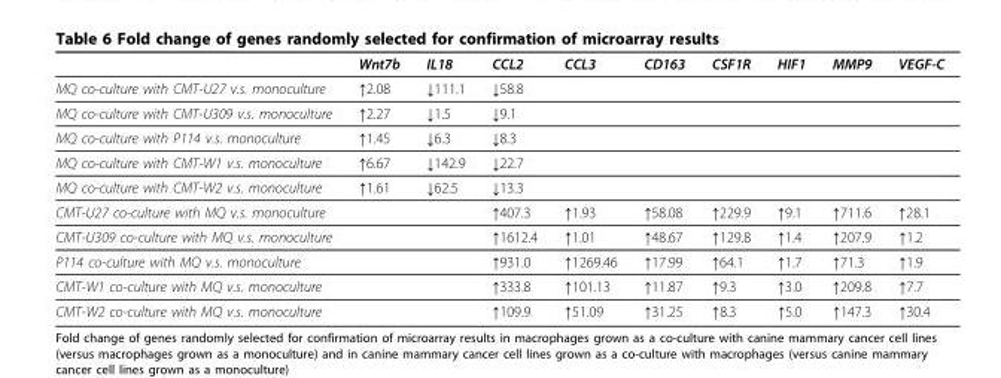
<table><thead><tr><td></td><td>Wnt7b</td><td>IL18</td><td>CCL2</td><td>CCL3</td><td>CD163</td><td>CSF1R</td><td>HIF1</td><td>MMP9</td><td>VEGF-C</td></tr></thead><tbody><tr><td>MQ co-culture with CMT-U27 v.s. monoculture</td><td>↑2.08</td><td>↓111.1</td><td>↓58.8</td><td></td><td></td><td></td><td></td><td></td><td></td></tr><tr><td>MQ co-culture with CMT-U309 v.s. monoculture</td><td>↑2.27</td><td>↓1.5</td><td>↓9.1</td><td></td><td></td><td></td><td></td><td></td><td></td></tr><tr><td>MQ co-culture with P114 v.s. monoculture</td><td>↑1.45</td><td>↓6.3</td><td>↓8.3</td><td></td><td></td><td></td><td></td><td></td><td></td></tr><tr><td>MQ co-culture with CMT-W1 v.s. monoculture</td><td>↑6.67</td><td>↓142.9</td><td>↓22.7</td><td></td><td></td><td></td><td></td><td></td><td></td></tr><tr><td>MQ co-culture with CMT-W2 v.s. monoculture</td><td>↑1.61</td><td>↓62.5</td><td>↓13.3</td><td></td><td></td><td></td><td></td><td></td><td></td></tr><tr><td>CMT-U27 co-culture with MQ v.s. monoculture</td><td></td><td></td><td>↑407.3</td><td>↑1.93</td><td>↑58.08</td><td>↑229.9</td><td>↑9.1</td><td>↑711.6</td><td>↑28.1</td></tr><tr><td>CMT-U309 co-culture with MQ v.s. monoculture</td><td></td><td></td><td>↑1612.4</td><td>↑1.01</td><td>↑48.67</td><td>↑129.8</td><td>↑1.4</td><td>↑207.9</td><td>↑1.2</td></tr><tr><td>P114 co-culture with MQ v.s. monoculture</td><td></td><td></td><td>↑931.0</td><td>↑1269.46</td><td>↑17.99</td><td>↑64.1</td><td>↑1.7</td><td>↑71.3</td><td>↑1.9</td></tr><tr><td>CMT-W1 co-culture with MQ v.s. monoculture</td><td></td><td></td><td>↑333.8</td><td>↑101.13</td><td>↑11.87</td><td>↑9.3</td><td>↑3.0</td><td>↑209.8</td><td>↑7.7</td></tr><tr><td>CMT-W2 co-culture with MQ v.s. monoculture</td><td></td><td></td><td>↑109.9</td><td>↑51.09</td><td>↑31.25</td><td>↑8.3</td><td>↑5.0</td><td>↑147.3</td><td>↑30.4</td></tr></tbody></table>